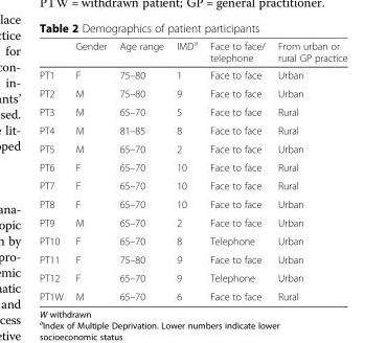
<table><thead><tr><td></td><td>Gender</td><td>Age range</td><td>IMD<sup>a</sup></td><td>Face to face/ telephone</td><td>From urban or rural GP practice</td></tr></thead><tbody><tr><td>PT1</td><td>F</td><td>75–80</td><td>1</td><td>Face to face</td><td>Urban</td></tr><tr><td>PT2</td><td>M</td><td>75–80</td><td>9</td><td>Face to face</td><td>Urban</td></tr><tr><td>PT3</td><td>M</td><td>65–70</td><td>5</td><td>Face to face</td><td>Rural</td></tr><tr><td>PT4</td><td>M</td><td>81–85</td><td>8</td><td>Face to face</td><td>Rural</td></tr><tr><td>PT5</td><td>M</td><td>65–70</td><td>2</td><td>Face to face</td><td>Urban</td></tr><tr><td>PT6</td><td>F</td><td>65–70</td><td>10</td><td>Face to face</td><td>Rural</td></tr><tr><td>PT7</td><td>F</td><td>65–70</td><td>10</td><td>Face to face</td><td>Rural</td></tr><tr><td>PT8</td><td>F</td><td>65–70</td><td>10</td><td>Face to face</td><td>Urban</td></tr><tr><td>PT9</td><td>M</td><td>65–70</td><td>2</td><td>Face to face</td><td>Urban</td></tr><tr><td>PT10</td><td>F</td><td>65–70</td><td>8</td><td>Telephone</td><td>Urban</td></tr><tr><td>PT11</td><td>F</td><td>75–80</td><td>9</td><td>Face to face</td><td>Urban</td></tr><tr><td>PT12</td><td>F</td><td>65–70</td><td>9</td><td>Telephone</td><td>Urban</td></tr><tr><td>PT1W</td><td>M</td><td>65–70</td><td>6</td><td>Face to face</td><td>Rural</td></tr></tbody></table>